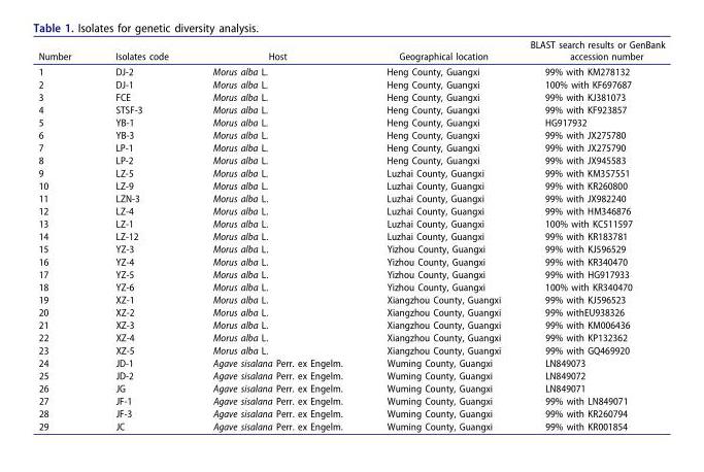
<table><thead><tr><td>Number</td><td>Isolates code</td><td>Host</td><td>Geographical location</td><td>BLAST search results or GenBank accession number</td></tr></thead><tbody><tr><td>1</td><td>DJ-2</td><td>Morus alba L.</td><td>Heng County, Guangxi</td><td>99% with KM278132</td></tr><tr><td>2</td><td>DJ-1</td><td>Morus alba L.</td><td>Heng County, Guangxi</td><td>100% with KF697687</td></tr><tr><td>3</td><td>FCE</td><td>Morus alba L.</td><td>Heng County, Guangxi</td><td>99% with KJ381073</td></tr><tr><td>4</td><td>STSF-3</td><td>Morus alba L.</td><td>Heng County, Guangxi</td><td>99% with KF923857</td></tr><tr><td>5</td><td>YB-1</td><td>Morus alba L.</td><td>Heng County, Guangxi</td><td>HG917932</td></tr><tr><td>6</td><td>YB-3</td><td>Morus alba L.</td><td>Heng County, Guangxi</td><td>99% with JX275780</td></tr><tr><td>7</td><td>LP-1</td><td>Morus alba L.</td><td>Heng County, Guangxi</td><td>99% with JX275790</td></tr><tr><td>8</td><td>LP-2</td><td>Morus alba L.</td><td>Heng County, Guangxi</td><td>99% with JX945583</td></tr><tr><td>9</td><td>LZ-5</td><td>Morus alba L.</td><td>Luzhai County, Guangxi</td><td>99% with KM357551</td></tr><tr><td>10</td><td>LZ-9</td><td>Morus alba L.</td><td>Luzhai County, Guangxi</td><td>99% with KR260800</td></tr><tr><td>11</td><td>LZN-3</td><td>Morus alba L.</td><td>Luzhai County, Guangxi</td><td>99% with JX982240</td></tr><tr><td>12</td><td>LZ-4</td><td>Morus alba L.</td><td>Luzhai County, Guangxi</td><td>99% with HM346876</td></tr><tr><td>13</td><td>LZ-1</td><td>Morus alba L.</td><td>Luzhai County, Guangxi</td><td>100% with KC511597</td></tr><tr><td>14</td><td>LZ-12</td><td>Morus alba L.</td><td>Luzhai County, Guangxi</td><td>99% with KR183781</td></tr><tr><td>15</td><td>YZ-3</td><td>Morus alba L.</td><td>Yizhou County, Guangxi</td><td>99% with KJ596529</td></tr><tr><td>16</td><td>YZ-4</td><td>Morus alba L.</td><td>Yizhou County, Guangxi</td><td>99% with KR340470</td></tr><tr><td>17</td><td>YZ-5</td><td>Morus alba L.</td><td>Yizhou County, Guangxi</td><td>99% with HG917933</td></tr><tr><td>18</td><td>YZ-6</td><td>Morus alba L.</td><td>Yizhou County, Guangxi</td><td>100% with KR340470</td></tr><tr><td>19</td><td>XZ-1</td><td>Morus alba L.</td><td>Xiangzhou County, Guangxi</td><td>99% with KJ596523</td></tr><tr><td>20</td><td>XZ-2</td><td>Morus alba L.</td><td>Xiangzhou County, Guangxi</td><td>99% withEU938326</td></tr><tr><td>21</td><td>XZ-3</td><td>Morus alba L.</td><td>Xiangzhou County, Guangxi</td><td>99% with KM006436</td></tr><tr><td>22</td><td>XZ-4</td><td>Morus alba L.</td><td>Xiangzhou County, Guangxi</td><td>99% with KP132362</td></tr><tr><td>23</td><td>XZ-5</td><td>Morus alba L.</td><td>Xiangzhou County, Guangxi</td><td>99% with GQ469920</td></tr><tr><td>24</td><td>JD-1</td><td>Agave sisalana Perr. ex Engelm.</td><td>Wuming County, Guangxi</td><td>LN849073</td></tr><tr><td>25</td><td>JD-2</td><td>Agave sisalana Perr. ex Engelm.</td><td>Wuming County, Guangxi</td><td>LN849072</td></tr><tr><td>26</td><td>JG</td><td>Agave sisalana Perr. ex Engelm.</td><td>Wuming County, Guangxi</td><td>LN849071</td></tr><tr><td>27</td><td>JF-1</td><td>Agave sisalana Perr. ex Engelm.</td><td>Wuming County, Guangxi</td><td>99% with LN849071</td></tr><tr><td>28</td><td>JF-3</td><td>Agave sisalana Perr. ex Engelm.</td><td>Wuming County, Guangxi</td><td>99% with KR260794</td></tr><tr><td>29</td><td>JC</td><td>Agave sisalana Perr. ex Engelm.</td><td>Wuming County, Guangxi</td><td>99% with KR001854</td></tr></tbody></table>